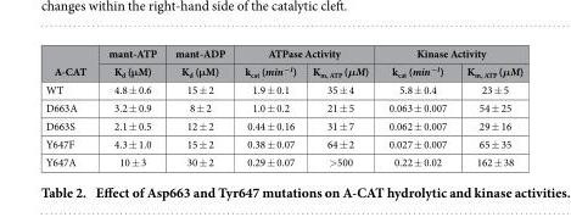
<table><thead><tr><td rowspan="2">A-CAT</td><td rowspan="2">mant-ATP K<sub>d</sub> (μM)</td><td rowspan="2">mant-ADP K<sub>d</sub> (μM)</td><td colspan="2">ATPase Activity</td><td colspan="2">Kinase Activity</td></tr><tr><td>k<sub>cat</sub> (min<sup>−1</sup>)</td><td>K<sub>m, ATP</sub> (μM)</td><td>k<sub>cat</sub> (min<sup>−1</sup>)</td><td>K<sub>m, ATP</sub> (μM)</td></tr></thead><tbody><tr><td>WT</td><td>4.8 ± 0.6</td><td>15 ± 2</td><td>1.9 ± 0.1</td><td>35 ± 4</td><td>5.8 ± 0.4</td><td>23 ± 5</td></tr><tr><td>D663A</td><td>3.2 ± 0.9</td><td>8 ± 2</td><td>1.0 ± 0.2</td><td>21 ± 5</td><td>0.063 ± 0.007</td><td>54 ± 25</td></tr><tr><td>D663S</td><td>2.1 ± 0.5</td><td>12 ± 2</td><td>0.44 ± 0.16</td><td>31 ± 7</td><td>0.062 ± 0.007</td><td>29 ± 16</td></tr><tr><td>Y647F</td><td>4.3 ± 1.0</td><td>15 ± 2</td><td>0.38 ± 0.07</td><td>64 ± 2</td><td>0.027 ± 0.007</td><td>65 ± 35</td></tr><tr><td>Y647A</td><td>10 ± 3</td><td>30 ± 2</td><td>0.29 ± 0.07</td><td>&gt; 500</td><td>0.22 ± 0.02</td><td>162 ± 38</td></tr></tbody></table>